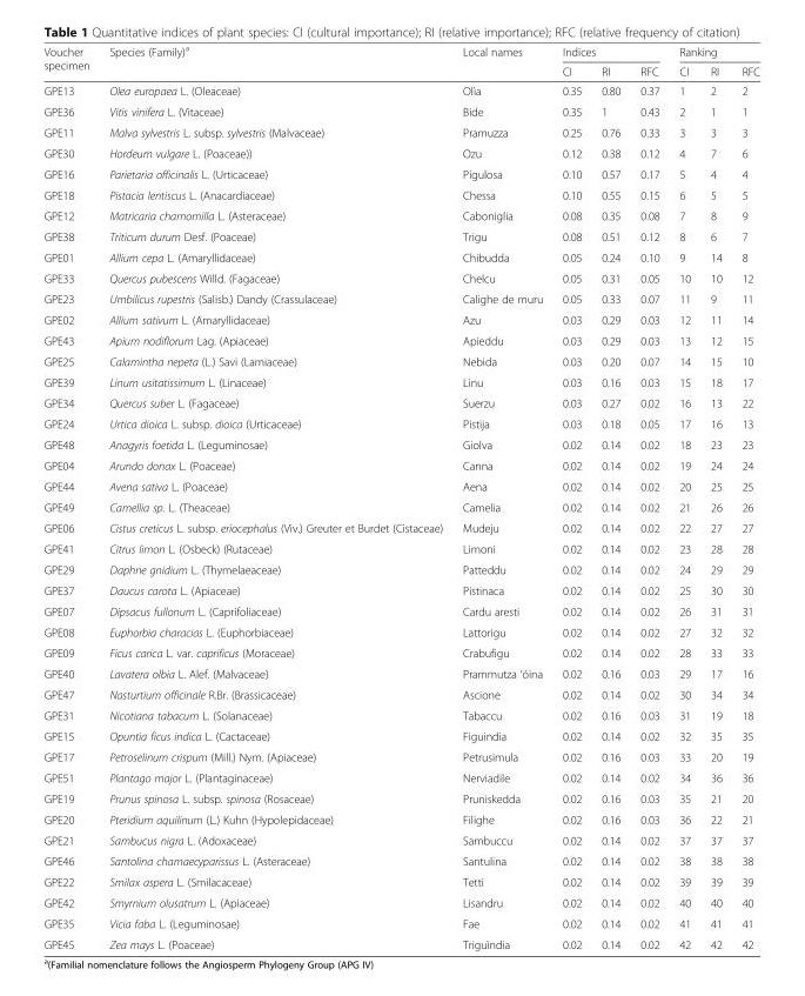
<table><thead><tr><td rowspan="2">Voucher specimen</td><td rowspan="2">Species (Family)<sup>a</sup></td><td rowspan="2">Local names</td><td colspan="3">Indices</td><td colspan="3">Ranking</td></tr><tr><td>CI</td><td>RI</td><td>RFC</td><td>CI</td><td>RI</td><td>RFC</td></tr></thead><tbody><tr><td>GPE13</td><td>Olea europaea L. (Oleaceae)</td><td>Olìa</td><td>0.35</td><td>0.80</td><td>0.37</td><td>1</td><td>2</td><td>2</td></tr><tr><td>GPE36</td><td>Vitis vinifera L. (Vitaceae)</td><td>Bide</td><td>0.35</td><td>1</td><td>0.43</td><td>2</td><td>1</td><td>1</td></tr><tr><td>GPE11</td><td>Malva sylvestris L. subsp. sylvestris (Malvaceae)</td><td>Pramuzza</td><td>0.25</td><td>0.76</td><td>0.33</td><td>3</td><td>3</td><td>3</td></tr><tr><td>GPE30</td><td>Hordeum vulgare L. (Poaceae))</td><td>Ozu</td><td>0.12</td><td>0.38</td><td>0.12</td><td>4</td><td>7</td><td>6</td></tr><tr><td>GPE16</td><td>Parietaria officinalis L. (Urticaceae)</td><td>Pigulosa</td><td>0.10</td><td>0.57</td><td>0.17</td><td>5</td><td>4</td><td>4</td></tr><tr><td>GPE18</td><td>Pistacia lentiscus L. (Anacardiaceae)</td><td>Chessa</td><td>0.10</td><td>0.55</td><td>0.15</td><td>6</td><td>5</td><td>5</td></tr><tr><td>GPE12</td><td>Matricaria chamomilla L. (Asteraceae)</td><td>Caboniglia</td><td>0.08</td><td>0.35</td><td>0.08</td><td>7</td><td>8</td><td>9</td></tr><tr><td>GPE38</td><td>Triticum durum Desf. (Poaceae)</td><td>Trigu</td><td>0.08</td><td>0.51</td><td>0.12</td><td>8</td><td>6</td><td>7</td></tr><tr><td>GPE01</td><td>Allium cepa L. (Amaryllidaceae)</td><td>Chibudda</td><td>0.05</td><td>0.24</td><td>0.10</td><td>9</td><td>14</td><td>8</td></tr><tr><td>GPE33</td><td>Quercus pubescens Willd. (Fagaceae)</td><td>Chelcu</td><td>0.05</td><td>0.31</td><td>0.05</td><td>10</td><td>10</td><td>12</td></tr><tr><td>GPE23</td><td>Umbilicus rupestris (Salisb.) Dandy (Crassulaceae)</td><td>Calighe de muru</td><td>0.05</td><td>0.33</td><td>0.07</td><td>11</td><td>9</td><td>11</td></tr><tr><td>GPE02</td><td>Allium sativum L. (Amaryllidaceae)</td><td>Azu</td><td>0.03</td><td>0.29</td><td>0.03</td><td>12</td><td>11</td><td>14</td></tr><tr><td>GPE43</td><td>Apium nodiflorum Lag. (Apiaceae)</td><td>Apieddu</td><td>0.03</td><td>0.29</td><td>0.03</td><td>13</td><td>12</td><td>15</td></tr><tr><td>GPE25</td><td>Calamintha nepeta (L.) Savi (Lamiaceae)</td><td>Nebida</td><td>0.03</td><td>0.20</td><td>0.07</td><td>14</td><td>15</td><td>10</td></tr><tr><td>GPE39</td><td>Linum usitatissimum L. (Linaceae)</td><td>Linu</td><td>0.03</td><td>0.16</td><td>0.03</td><td>15</td><td>18</td><td>17</td></tr><tr><td>GPE34</td><td>Quercus suber L. (Fagaceae)</td><td>Suerzu</td><td>0.03</td><td>0.27</td><td>0.02</td><td>16</td><td>13</td><td>22</td></tr><tr><td>GPE24</td><td>Urtica dioica L. subsp. dioica (Urticaceae)</td><td>Pistija</td><td>0.03</td><td>0.18</td><td>0.05</td><td>17</td><td>16</td><td>13</td></tr><tr><td>GPE48</td><td>Anagyris foetida L. (Leguminosae)</td><td>Giolva</td><td>0.02</td><td>0.14</td><td>0.02</td><td>18</td><td>23</td><td>23</td></tr><tr><td>GPE04</td><td>Arundo donax L. (Poaceae)</td><td>Canna</td><td>0.02</td><td>0.14</td><td>0.02</td><td>19</td><td>24</td><td>24</td></tr><tr><td>GPE44</td><td>Avena sativa L. (Poaceae)</td><td>Aena</td><td>0.02</td><td>0.14</td><td>0.02</td><td>20</td><td>25</td><td>25</td></tr><tr><td>GPE49</td><td>Camellia sp. L. (Theaceae)</td><td>Camelia</td><td>0.02</td><td>0.14</td><td>0.02</td><td>21</td><td>26</td><td>26</td></tr><tr><td>GPE06</td><td>Cistus creticus L. subsp. eriocephalus (Viv.) Greuter et Burdet (Cistaceae)</td><td>Mudeju</td><td>0.02</td><td>0.14</td><td>0.02</td><td>22</td><td>27</td><td>27</td></tr><tr><td>GPE41</td><td>Citrus limon L. (Osbeck) (Rutaceae)</td><td>Limoni</td><td>0.02</td><td>0.14</td><td>0.02</td><td>23</td><td>28</td><td>28</td></tr><tr><td>GPE29</td><td>Daphne gnidium L. (Thymelaeaceae)</td><td>Patteddu</td><td>0.02</td><td>0.14</td><td>0.02</td><td>24</td><td>29</td><td>29</td></tr><tr><td>GPE37</td><td>Daucus carota L. (Apiaceae)</td><td>Pistinaca</td><td>0.02</td><td>0.14</td><td>0.02</td><td>25</td><td>30</td><td>30</td></tr><tr><td>GPE07</td><td>Dipsacus fullonum L. (Caprifoliaceae)</td><td>Cardu aresti</td><td>0.02</td><td>0.14</td><td>0.02</td><td>26</td><td>31</td><td>31</td></tr><tr><td>GPE08</td><td>Euphorbia characias L. (Euphorbiaceae)</td><td>Lattorigu</td><td>0.02</td><td>0.14</td><td>0.02</td><td>27</td><td>32</td><td>32</td></tr><tr><td>GPE09</td><td>Ficus carica L. var. caprificus (Moraceae)</td><td>Crabufigu</td><td>0.02</td><td>0.14</td><td>0.02</td><td>28</td><td>33</td><td>33</td></tr><tr><td>GPE40</td><td>Lavatera olbia L. Alef. (Malvaceae)</td><td>Prammutza ‘óina</td><td>0.02</td><td>0.16</td><td>0.03</td><td>29</td><td>17</td><td>16</td></tr><tr><td>GPE47</td><td>Nasturtium officinale R.Br. (Brassicaceae)</td><td>Ascione</td><td>0.02</td><td>0.14</td><td>0.02</td><td>30</td><td>34</td><td>34</td></tr><tr><td>GPE31</td><td>Nicotiana tabacum L. (Solanaceae)</td><td>Tabaccu</td><td>0.02</td><td>0.16</td><td>0.03</td><td>31</td><td>19</td><td>18</td></tr><tr><td>GPE15</td><td>Opuntia ficus indica L. (Cactaceae)</td><td>Figuindia</td><td>0.02</td><td>0.14</td><td>0.02</td><td>32</td><td>35</td><td>35</td></tr><tr><td>GPE17</td><td>Petroselinum crispum (Mill.) Nym. (Apiaceae)</td><td>Petrusimula</td><td>0.02</td><td>0.16</td><td>0.03</td><td>33</td><td>20</td><td>19</td></tr><tr><td>GPE51</td><td>Plantago major L. (Plantaginaceae)</td><td>Nerviadile</td><td>0.02</td><td>0.14</td><td>0.02</td><td>34</td><td>36</td><td>36</td></tr><tr><td>GPE19</td><td>Prunus spinosa L. subsp. spinosa (Rosaceae)</td><td>Pruniskedda</td><td>0.02</td><td>0.16</td><td>0.03</td><td>35</td><td>21</td><td>20</td></tr><tr><td>GPE20</td><td>Pteridium aquilinum (L.) Kuhn (Hypolepidaceae)</td><td>Filighe</td><td>0.02</td><td>0.16</td><td>0.03</td><td>36</td><td>22</td><td>21</td></tr><tr><td>GPE21</td><td>Sambucus nigra L. (Adoxaceae)</td><td>Sambuccu</td><td>0.02</td><td>0.14</td><td>0.02</td><td>37</td><td>37</td><td>37</td></tr><tr><td>GPE46</td><td>Santolina chamaecyparissus L. (Asteraceae)</td><td>Santulina</td><td>0.02</td><td>0.14</td><td>0.02</td><td>38</td><td>38</td><td>38</td></tr><tr><td>GPE22</td><td>Smilax aspera L. (Smilacaceae)</td><td>Tetti</td><td>0.02</td><td>0.14</td><td>0.02</td><td>39</td><td>39</td><td>39</td></tr><tr><td>GPE42</td><td>Smyrnium olusatrum L. (Apiaceae)</td><td>Lisandru</td><td>0.02</td><td>0.14</td><td>0.02</td><td>40</td><td>40</td><td>40</td></tr><tr><td>GPE35</td><td>Vicia faba L. (Leguminosae)</td><td>Fae</td><td>0.02</td><td>0.14</td><td>0.02</td><td>41</td><td>41</td><td>41</td></tr><tr><td>GPE45</td><td>Zea mays L. (Poaceae)</td><td>Triguìndia</td><td>0.02</td><td>0.14</td><td>0.02</td><td>42</td><td>42</td><td>42</td></tr></tbody></table>